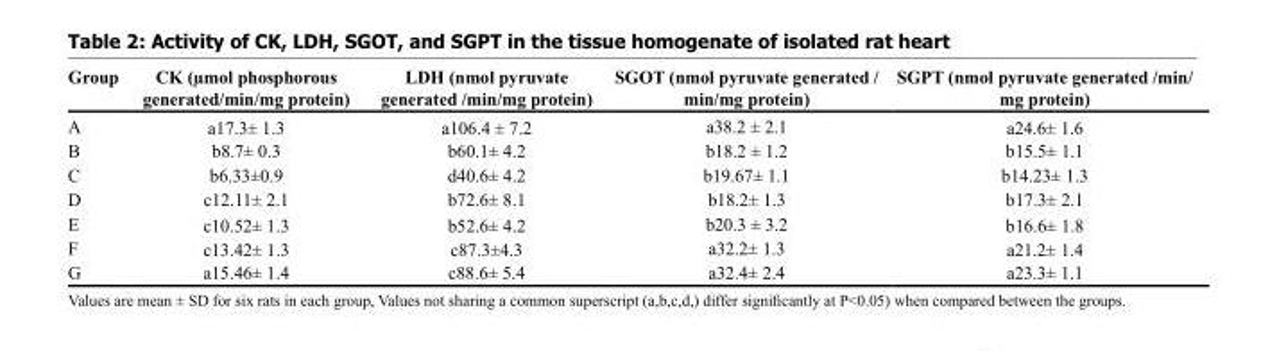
<table><thead><tr><td>Group</td><td>CK (µmol phosphorous generated/min/mg protein)</td><td>LDH (nmol pyruvate generated /min/mg protein)</td><td>SGOT (nmol pyruvate generated / min/mg protein)</td><td>SGPT (nmol pyruvate generated /min/ mg protein)</td></tr></thead><tbody><tr><td>A</td><td>a17.3± 1.3</td><td>a106.4 ± 7.2</td><td>a38.2 ± 2.1</td><td>a24.6± 1.6</td></tr><tr><td>B</td><td>b8.7± 0.3</td><td>b60.1± 4.2</td><td>b18.2 ± 1.2</td><td>b15.5± 1.1</td></tr><tr><td>C</td><td>b6.33±0.9</td><td>d40.6± 4.2</td><td>b19.67± 1.1</td><td>b14.23± 1.3</td></tr><tr><td>D</td><td>c12.11± 2.1</td><td>b72.6± 8.1</td><td>b18.2± 1.3</td><td>b17.3± 2.1</td></tr><tr><td>E</td><td>c10.52± 1.3</td><td>b52.6± 4.2</td><td>b20.3 ± 3.2</td><td>b16.6± 1.8</td></tr><tr><td>F</td><td>c13.42± 1.3</td><td>c87.3±4.3</td><td>a32.2± 1.3</td><td>a21.2± 1.4</td></tr><tr><td>G</td><td>a15.46± 1.4</td><td>c88.6± 5.4</td><td>a32.4± 2.4</td><td>a23.3± 1.1</td></tr></tbody></table>